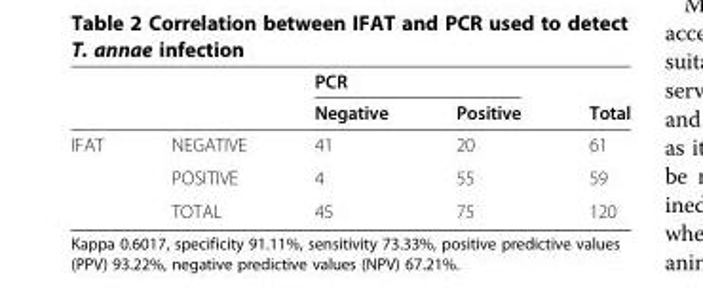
<table><thead><tr><td rowspan="2"></td><td rowspan="2"></td><td colspan="2">PCR</td><td rowspan="2">Total</td></tr><tr><td>Negative</td><td>Positive</td></tr></thead><tbody><tr><td rowspan="3">IFAT</td><td>NEGATIVE</td><td>41</td><td>20</td><td>61</td></tr><tr><td>POSITIVE</td><td>4</td><td>55</td><td>59</td></tr><tr><td>TOTAL</td><td>45</td><td>75</td><td>120</td></tr></tbody></table>